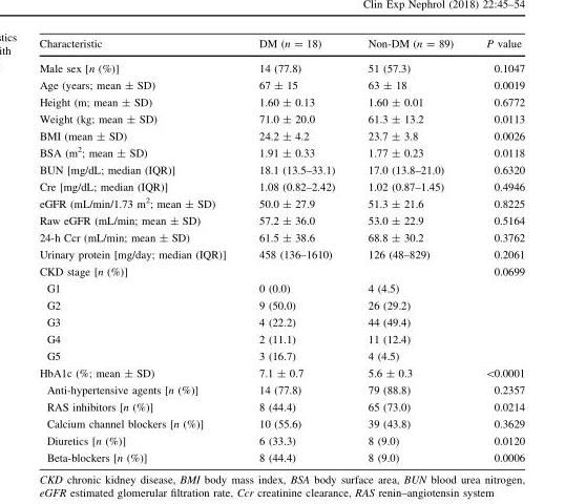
<table><thead><tr><td>Characteristic</td><td>DM (n = 18)</td><td>Non-DM (n = 89)</td><td>P value</td></tr></thead><tbody><tr><td>Male sex [n (%)]</td><td>14 (77.8)</td><td>51 (57.3)</td><td>0.1047</td></tr><tr><td>Age (years; mean ± SD)</td><td>67 ± 15</td><td>63 ± 18</td><td>0.0019</td></tr><tr><td>Height (m; mean ± SD)</td><td>1.60 ± 0.13</td><td>1.60 ± 0.01</td><td>0.6772</td></tr><tr><td>Weight (kg; mean ± SD)</td><td>71.0 ± 20.0</td><td>61.3 ± 13.2</td><td>0.0113</td></tr><tr><td>BMI (mean ± SD)</td><td>24.2 ± 4.2</td><td>23.7 ± 3.8</td><td>0.0026</td></tr><tr><td>BSA (m<sup>2</sup>; mean ± SD)</td><td>1.91 ± 0.33</td><td>1.77 ± 0.23</td><td>0.0118</td></tr><tr><td>BUN [mg/dL; median (IQR)]</td><td>18.1 (13.5–33.1)</td><td>17.0 (13.8–21.0)</td><td>0.6320</td></tr><tr><td>Cre [mg/dL; median (IQR)]</td><td>1.08 (0.82–2.42)</td><td>1.02 (0.87–1.45)</td><td>0.4946</td></tr><tr><td>eGFR (mL/min/1.73 m<sup>2</sup>; mean ± SD)</td><td>50.0 ± 27.9</td><td>51.3 ± 21.6</td><td>0.8225</td></tr><tr><td>Raw eGFR (mL/min; mean ± SD)</td><td>57.2 ± 36.0</td><td>53.0 ± 22.9</td><td>0.5164</td></tr><tr><td>24-h Ccr (mL/min; mean ± SD)</td><td>61.5 ± 38.6</td><td>68.8 ± 30.2</td><td>0.3762</td></tr><tr><td>Urinary protein [mg/day; median (IQR)]</td><td>458 (136–1610)</td><td>126 (48–829)</td><td>0.2061</td></tr><tr><td>CKD stage [n (%)]</td><td></td><td></td><td>0.0699</td></tr><tr><td>G1</td><td>0 (0.0)</td><td>4 (4.5)</td><td></td></tr><tr><td>G2</td><td>9 (50.0)</td><td>26 (29.2)</td><td></td></tr><tr><td>G3</td><td>4 (22.2)</td><td>44 (49.4)</td><td></td></tr><tr><td>G4</td><td>2 (11.1)</td><td>11 (12.4)</td><td></td></tr><tr><td>G5</td><td>3 (16.7)</td><td>4 (4.5)</td><td></td></tr><tr><td>HbA1c (%; mean ± SD)</td><td>7.1 ± 0.7</td><td>5.6 ± 0.3</td><td>&lt;0.0001</td></tr><tr><td>Anti-hypertensive agents [n (%)]</td><td>14 (77.8)</td><td>79 (88.8)</td><td>0.2357</td></tr><tr><td>RAS inhibitors [n (%)]</td><td>8 (44.4)</td><td>65 (73.0)</td><td>0.0214</td></tr><tr><td>Calcium channel blockers [n (%)]</td><td>10 (55.6)</td><td>39 (43.8)</td><td>0.3629</td></tr><tr><td>Diuretics [n (%)]</td><td>6 (33.3)</td><td>8 (9.0)</td><td>0.0120</td></tr><tr><td>Beta-blockers [n (%)]</td><td>8 (44.4)</td><td>8 (9.0)</td><td>0.0006</td></tr></tbody></table>